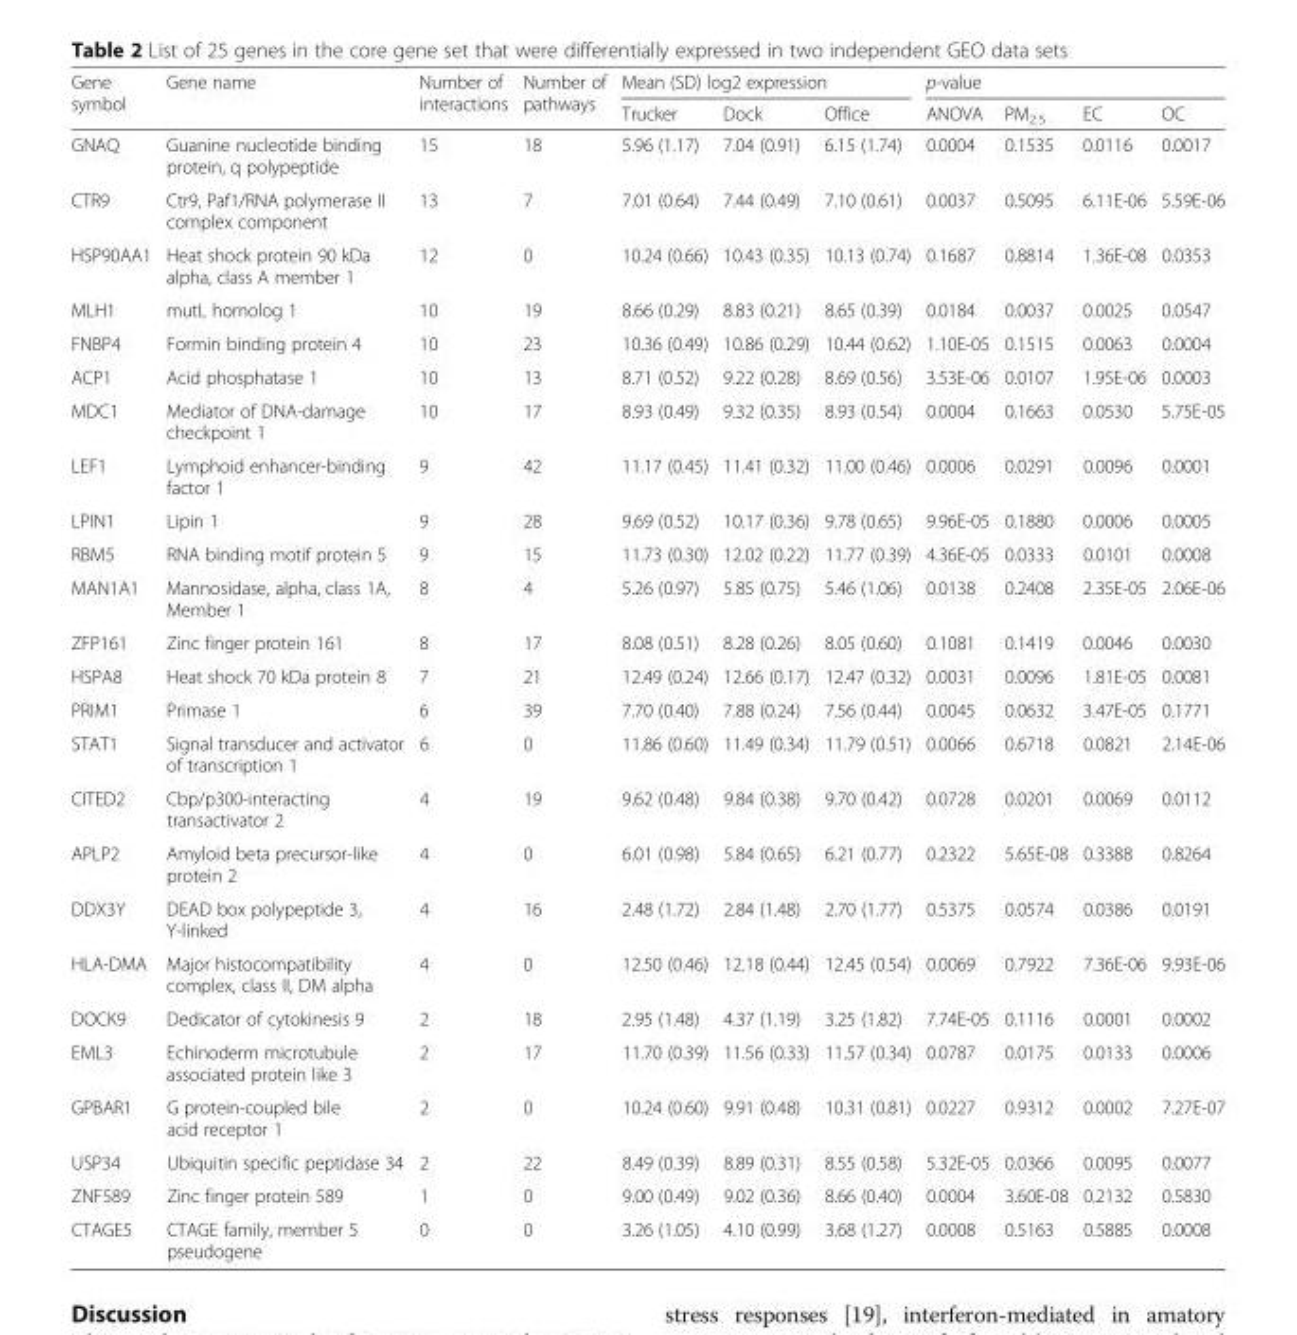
<table><thead><tr><td rowspan="2">Gene symbol</td><td rowspan="2">Gene name</td><td rowspan="2">Number of interactions</td><td rowspan="2">Number of pathways</td><td colspan="3">Mean (SD) log2 expression</td><td colspan="4">p-value</td></tr><tr><td>Trucker</td><td>Dock</td><td>Office</td><td>ANOVA</td><td>PM<sub>2.5</sub></td><td>EC</td><td>OC</td></tr></thead><tbody><tr><td>GNAQ</td><td>Guanine nucleotide binding protein, q polypeptide</td><td>15</td><td>18</td><td>5.96 (1.17)</td><td>7.04 (0.91)</td><td>6.15 (1.74)</td><td>0.0004</td><td>0.1535</td><td>0.0116</td><td>0.0017</td></tr><tr><td>CTR9</td><td>Ctr9, Paf1/RNA polymerase II complex component</td><td>13</td><td>7</td><td>7.01 (0.64)</td><td>7.44 (0.49)</td><td>7.10 (0.61)</td><td>0.0037</td><td>0.5095</td><td>6.11E-06</td><td>5.59E-06</td></tr><tr><td>HSP90AA1</td><td>Heat shock protein 90 kDa alpha, class A member 1</td><td>12</td><td>0</td><td>10.24 (0.66)</td><td>10.43 (0.35)</td><td>10.13 (0.74)</td><td>0.1687</td><td>0.8814</td><td>1.36E-08</td><td>0.0353</td></tr><tr><td>MLH1</td><td>mutL homolog 1</td><td>10</td><td>19</td><td>8.66 (0.29)</td><td>8.83 (0.21)</td><td>8.65 (0.39)</td><td>0.0184</td><td>0.0037</td><td>0.0025</td><td>0.0547</td></tr><tr><td>FNBP4</td><td>Formin binding protein 4</td><td>10</td><td>23</td><td>10.36 (0.49)</td><td>10.86 (0.29)</td><td>10.44 (0.62)</td><td>1.10E-05</td><td>0.1515</td><td>0.0063</td><td>0.0004</td></tr><tr><td>ACP1</td><td>Acid phosphatase 1</td><td>10</td><td>13</td><td>8.71 (0.52)</td><td>9.22 (0.28)</td><td>8.69 (0.56)</td><td>3.53E-06</td><td>0.0107</td><td>1.95E-06</td><td>0.0003</td></tr><tr><td>MDC1</td><td>Mediator of DNA-damage checkpoint 1</td><td>10</td><td>17</td><td>8.93 (0.49)</td><td>9.32 (0.35)</td><td>8.93 (0.54)</td><td>0.0004</td><td>0.1663</td><td>0.0530</td><td>5.75E-05</td></tr><tr><td>LEF1</td><td>Lymphoid enhancer-binding factor 1</td><td>9</td><td>42</td><td>11.17 (0.45)</td><td>11.41 (0.32)</td><td>11.00 (0.46)</td><td>0.0006</td><td>0.0291</td><td>0.0096</td><td>0.0001</td></tr><tr><td>LPIN1</td><td>Lipin 1</td><td>9</td><td>28</td><td>9.69 (0.52)</td><td>10.17 (0.36)</td><td>9.78 (0.65)</td><td>9.96E-05</td><td>0.1880</td><td>0.0006</td><td>0.0005</td></tr><tr><td>RBM5</td><td>RNA binding motif protein 5</td><td>9</td><td>15</td><td>11.73 (0.30)</td><td>12.02 (0.22)</td><td>11.77 (0.39)</td><td>4.36E-05</td><td>0.0333</td><td>0.0101</td><td>0.0008</td></tr><tr><td>MAN1A1</td><td>Mannosidase, alpha, class 1A, Member 1</td><td>8</td><td>4</td><td>5.26 (0.97)</td><td>5.85 (0.75)</td><td>5.46 (1.06)</td><td>0.0138</td><td>0.2408</td><td>2.35E-05</td><td>2.06E-06</td></tr><tr><td>ZFP161</td><td>Zinc finger protein 161</td><td>8</td><td>17</td><td>8.08 (0.51)</td><td>8.28 (0.26)</td><td>8.05 (0.60)</td><td>0.1081</td><td>0.1419</td><td>0.0046</td><td>0.0030</td></tr><tr><td>HSPA8</td><td>Heat shock 70 kDa protein 8</td><td>7</td><td>21</td><td>12.49 (0.24)</td><td>12.66 (0.17)</td><td>12.47 (0.32)</td><td>0.0031</td><td>0.0096</td><td>1.81E-05</td><td>0.0081</td></tr><tr><td>PRIM1</td><td>Primase 1</td><td>6</td><td>39</td><td>7.70 (0.40)</td><td>7.88 (0.24)</td><td>7.56 (0.44)</td><td>0.0045</td><td>0.0632</td><td>3.47E-05</td><td>0.1771</td></tr><tr><td>STAT1</td><td>Signal transducer and activator of transcription 1</td><td>6</td><td>0</td><td>11.86 (0.60)</td><td>11.49 (0.34)</td><td>11.79 (0.51)</td><td>0.0066</td><td>0.6718</td><td>0.0821</td><td>2.14E-06</td></tr><tr><td>CITED2</td><td>Cbp/p300-interacting transactivator 2</td><td>4</td><td>19</td><td>9.62 (0.48)</td><td>9.84 (0.38)</td><td>9.70 (0.42)</td><td>0.0728</td><td>0.0201</td><td>0.0069</td><td>0.0112</td></tr><tr><td>APLP2</td><td>Amyloid beta precursor-like protein 2</td><td>4</td><td>0</td><td>6.01 (0.98)</td><td>5.84 (0.65)</td><td>6.21 (0.77)</td><td>0.2322</td><td>5.65E-08</td><td>0.3388</td><td>0.8264</td></tr><tr><td>DDX3Y</td><td>DEAD box polypeptide 3, Y-linked</td><td>4</td><td>16</td><td>2.48 (1.72)</td><td>2.84 (1.48)</td><td>2.70 (1.77)</td><td>0.5375</td><td>0.0574</td><td>0.0386</td><td>0.0191</td></tr><tr><td>HLA-DMA</td><td>Major histocompatibility complex, class II, DM alpha</td><td>4</td><td>0</td><td>12.50 (0.46)</td><td>12.18 (0.44)</td><td>12.45 (0.54)</td><td>0.0069</td><td>0.7922</td><td>7.36E-06</td><td>9.93E-06</td></tr><tr><td>DOCK9</td><td>Dedicator of cytokinesis 9</td><td>2</td><td>18</td><td>2.95 (1.48)</td><td>4.37 (1.19)</td><td>3.25 (1.82)</td><td>7.74E-05</td><td>0.1116</td><td>0.0001</td><td>0.0002</td></tr><tr><td>EML3</td><td>Echinoderm microtubule associated protein like 3</td><td>2</td><td>17</td><td>11.70 (0.39)</td><td>11.56 (0.33)</td><td>11.57 (0.34)</td><td>0.0787</td><td>0.0175</td><td>0.0133</td><td>0.0006</td></tr><tr><td>GPBAR1</td><td>G protein-coupled bile acid receptor 1</td><td>2</td><td>0</td><td>10.24 (0.60)</td><td>9.91 (0.48)</td><td>10.31 (0.81)</td><td>0.0227</td><td>0.9312</td><td>0.0002</td><td>7.27E-07</td></tr><tr><td>USP34</td><td>Ubiquitin specific peptidase 34</td><td>2</td><td>22</td><td>8.49 (0.39)</td><td>8.89 (0.31)</td><td>8.55 (0.58)</td><td>5.32E-05</td><td>0.0366</td><td>0.0095</td><td>0.0077</td></tr><tr><td>ZNF589</td><td>Zinc finger protein 589</td><td>1</td><td>0</td><td>9.00 (0.49)</td><td>9.02 (0.36)</td><td>8.66 (0.40)</td><td>0.0004</td><td>3.60E-08</td><td>0.2132</td><td>0.5830</td></tr><tr><td>CTAGE5</td><td>CTAGE family, member 5 pseudogene</td><td>0</td><td>0</td><td>3.26 (1.05)</td><td>4.10 (0.99)</td><td>3.68 (1.27)</td><td>0.0008</td><td>0.5163</td><td>0.5885</td><td>0.0008</td></tr></tbody></table>